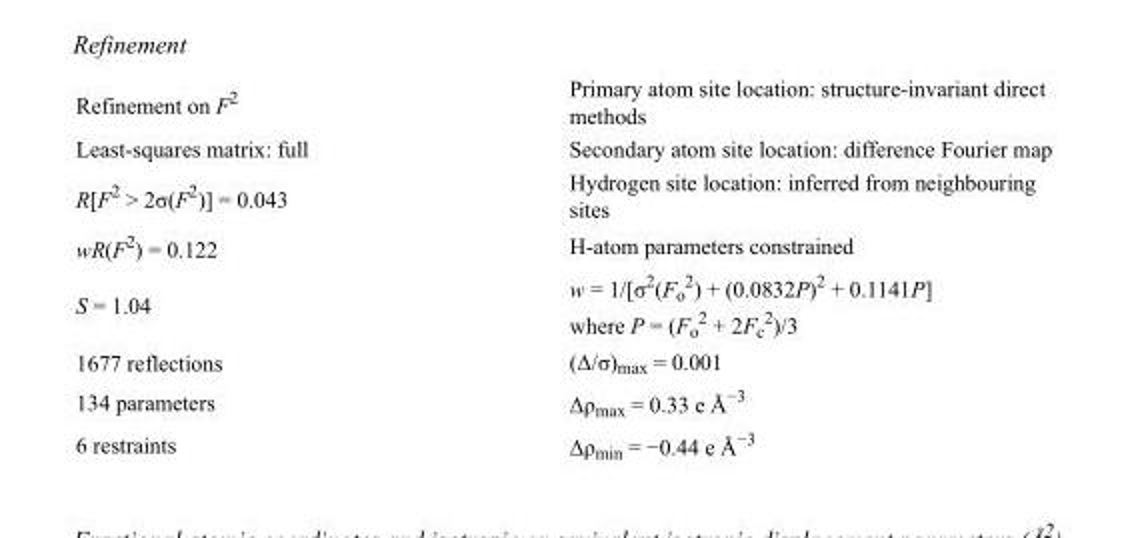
<table><tbody><tr><td>Refinement on F<sup>2</sup></td><td>Primary atom site location: structure-invariant direct methods</td></tr><tr><td>Least-squares matrix: full</td><td>Secondary atom site location: difference Fourier map</td></tr><tr><td>R[F<sup>2</sup> &gt; 2σ(F<sup>2</sup>)] = 0.043</td><td>Hydrogen site location: inferred from neighbouring sites</td></tr><tr><td>wR(F<sup>2</sup>) = 0.122</td><td>H-atom parameters constrained</td></tr><tr><td>S = 1.04</td><td>w = 1/[σ<sup>2</sup>(F<sub>o</sub> <sup>2</sup>) + (0.0832P)<sup>2</sup> + 0.1141P] where P = (F<sub>o</sub> <sup>2</sup> + 2F<sub>c</sub> <sup>2</sup>)/3</td></tr><tr><td>1677 reflections</td><td>(Δ/σ)<sub>max</sub> = 0.001</td></tr><tr><td>134 parameters</td><td>Δρ<sub>max</sub> = 0.33 e Å<sup>−3</sup></td></tr><tr><td>6 restraints</td><td>Δρ<sub>min</sub> = −0.44 e Å<sup>−3</sup></td></tr></tbody></table>